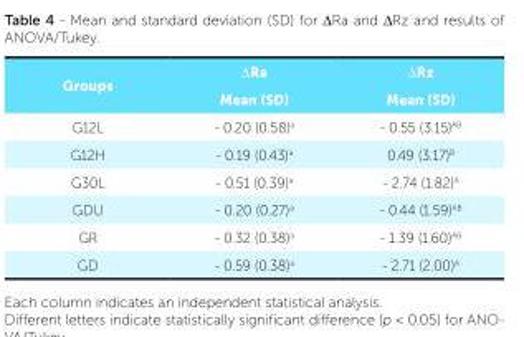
<table><thead><tr><td rowspan="2">Groups</td><td rowspan="2">ΔRa Mean (SD)</td><td rowspan="2">ΔRz Mean (SD)</td></tr><tr></tr></thead><tbody><tr><td>G12L</td><td>- 0.20 (0.58)<sup>a</sup></td><td>- 0.55 (3.15)<sup>AB</sup></td></tr><tr><td>G12H</td><td>- 0.19 (0.43)<sup>a</sup></td><td>0.49 (3.17)<sup>B</sup></td></tr><tr><td>G30L</td><td>- 0.51 (0.39)<sup>a</sup></td><td>- 2.74 (1.82)<sup>A</sup></td></tr><tr><td>GDU</td><td>- 0.20 (0.27)<sup>a</sup></td><td>- 0.44 (1.59)<sup>AB</sup></td></tr><tr><td>GR</td><td>- 0.32 (0.38)<sup>a</sup></td><td>- 1.39 (1.60)<sup>AB</sup></td></tr><tr><td>GD</td><td>- 0.59 (0.38)<sup>a</sup></td><td>- 2.71 (2.00)<sup>A</sup></td></tr></tbody></table>